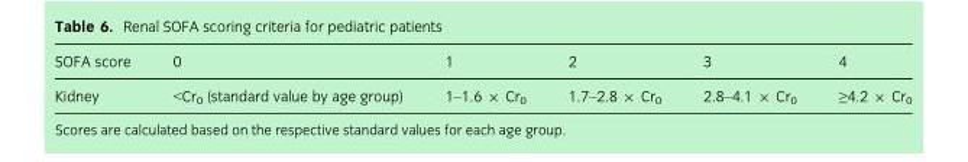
<table><thead><tr><td>SOFA score</td><td>0</td><td>1</td><td>2</td><td>3</td><td>4</td></tr></thead><tbody><tr><td>Kidney</td><td>&lt;Cr<sub>0</sub> (standard value by age group)</td><td>1–1.6 × Cr<sub>0</sub></td><td>1.7–2.8 × Cr<sub>0</sub></td><td>2.8–4.1 × Cr<sub>0</sub></td><td>≥4.2 × Cr<sub>0</sub></td></tr></tbody></table>